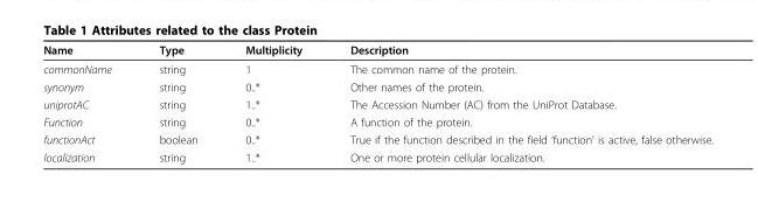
<table><thead><tr><td>Name</td><td>Type</td><td>Multiplicity</td><td>Description</td></tr></thead><tbody><tr><td>commonName</td><td>string</td><td>1</td><td>The common name of the protein.</td></tr><tr><td>synonym</td><td>string</td><td>0..*</td><td>Other names of the protein.</td></tr><tr><td>uniprotAC</td><td>string</td><td>1..*</td><td>The Accession Number (AC) from the UniProt Database.</td></tr><tr><td>Function</td><td>string</td><td>0..*</td><td>A function of the protein.</td></tr><tr><td>functionAct</td><td>boolean</td><td>0..*</td><td>True if the function described in the field ‘function’ is active, false otherwise.</td></tr><tr><td>localization</td><td>string</td><td>1..*</td><td>One or more protein cellular localization.</td></tr></tbody></table>